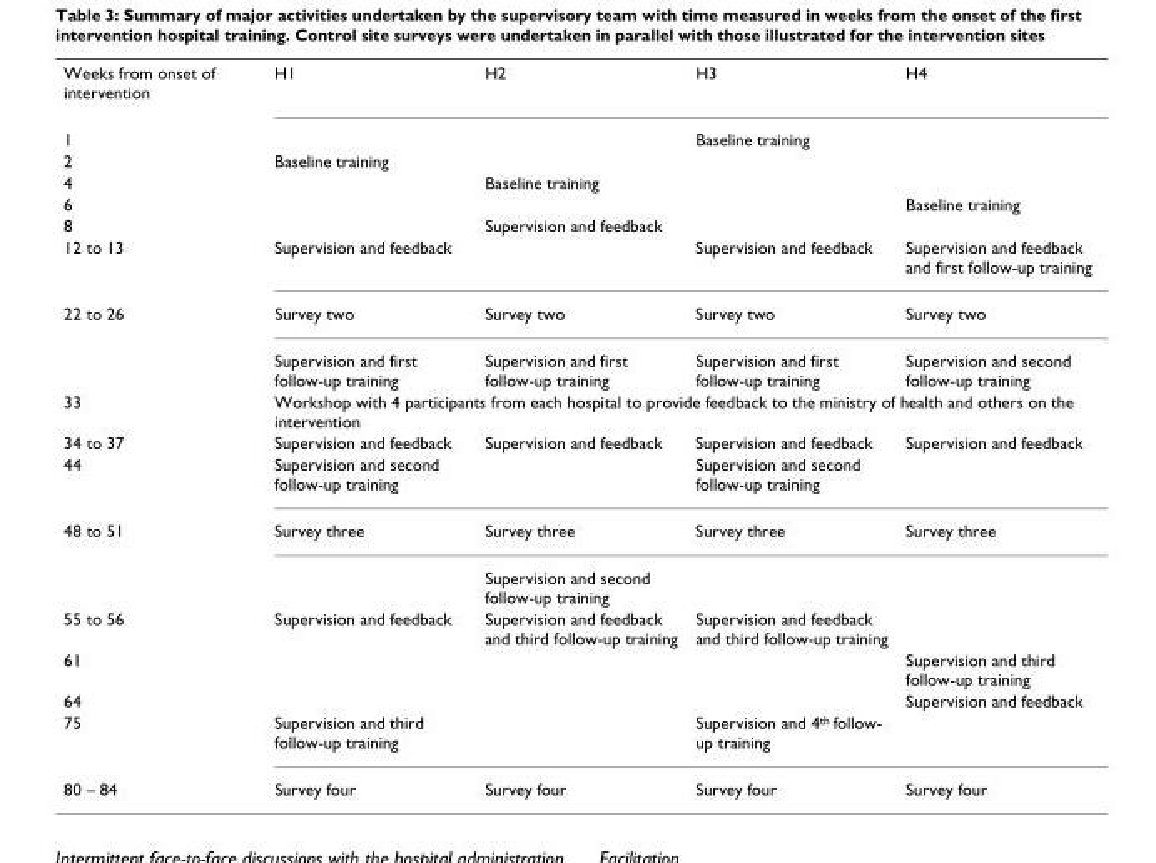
<table><tbody><tr><td>Weeks from onset of intervention</td><td>H1</td><td>H2</td><td>H3</td><td>H4</td></tr><tr><td>1</td><td></td><td></td><td>Baseline training</td><td></td></tr><tr><td>2</td><td>Baseline training</td><td></td><td></td><td></td></tr><tr><td>4</td><td></td><td>Baseline training</td><td></td><td></td></tr><tr><td>6</td><td></td><td></td><td></td><td>Baseline training</td></tr><tr><td>8</td><td></td><td>Supervision and feedback</td><td></td><td></td></tr><tr><td>12 to 13</td><td>Supervision and feedback</td><td></td><td>Supervision and feedback</td><td>Supervision and feedback and first follow-up training</td></tr><tr><td rowspan="2">22 to 26</td><td>Survey two</td><td>Survey two</td><td>Survey two</td><td>Survey two</td></tr><tr><td>Supervision and first follow-up training</td><td>Supervision and first follow-up training</td><td>Supervision and first follow-up training</td><td>Supervision and second follow-up training</td></tr><tr><td>33</td><td colspan="4">Workshop with 4 participants from each hospital to provide feedback to the ministry of health and others on the intervention</td></tr><tr><td>34 to 37</td><td>Supervision and feedback</td><td>Supervision and feedback</td><td>Supervision and feedback</td><td>Supervision and feedback</td></tr><tr><td>44</td><td>Supervision and second follow-up training</td><td></td><td>Supervision and second follow-up training</td><td></td></tr><tr><td rowspan="2">48 to 51</td><td>Survey three</td><td>Survey three</td><td>Survey three</td><td>Survey three</td></tr><tr><td></td><td>Supervision and second follow-up training</td><td></td><td></td></tr><tr><td>55 to 56</td><td>Supervision and feedback</td><td>Supervision and feedback and third follow-up training</td><td>Supervision and feedback and third follow-up training</td><td></td></tr><tr><td>61</td><td></td><td></td><td></td><td>Supervision and third follow-up training</td></tr><tr><td>64</td><td></td><td></td><td></td><td>Supervision and feedback</td></tr><tr><td>75</td><td>Supervision and third follow-up training</td><td></td><td>Supervision and 4<sup>th</sup> follow- up training</td><td></td></tr><tr><td>80 – 84</td><td>Survey four</td><td>Survey four</td><td>Survey four</td><td>Survey four</td></tr></tbody></table>